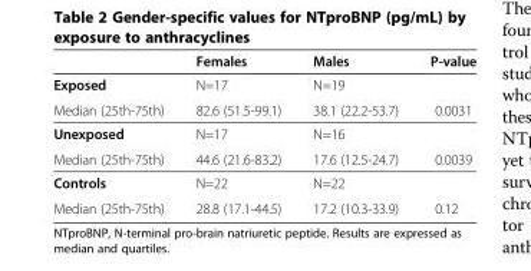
<table><thead><tr><td></td><td>Females</td><td>Males</td><td>P-value</td></tr></thead><tbody><tr><td>Exposed</td><td>N=17</td><td>N=19</td><td></td></tr><tr><td>Median (25th-75th)</td><td>82.6 (51.5-99.1)</td><td>38.1 (22.2-53.7)</td><td>0.0031</td></tr><tr><td>Unexposed</td><td>N=17</td><td>N=16</td><td></td></tr><tr><td>Median (25th-75th)</td><td>44.6 (21.6-83.2)</td><td>17.6 (12.5-24.7)</td><td>0.0039</td></tr><tr><td>Controls</td><td>N=22</td><td>N=22</td><td></td></tr><tr><td>Median (25th-75th)</td><td>28.8 (17.1-44.5)</td><td>17.2 (10.3-33.9)</td><td>0.12</td></tr></tbody></table>